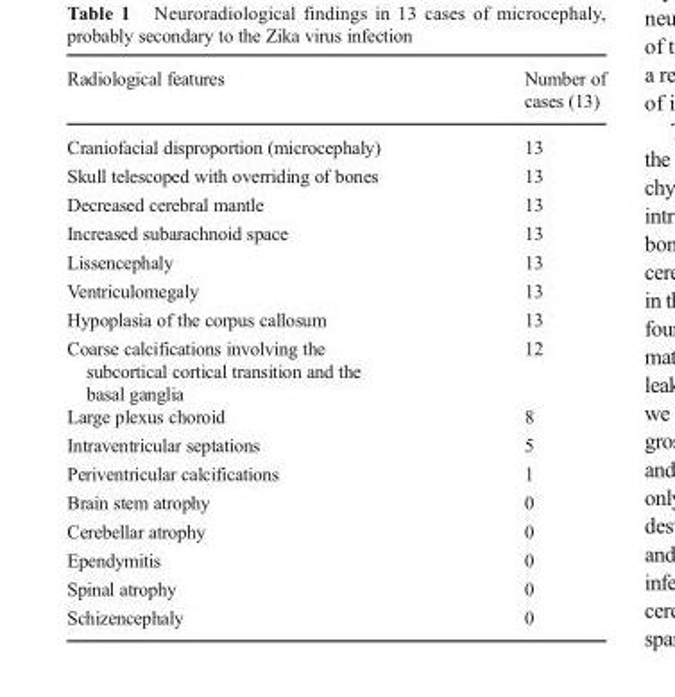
<table><thead><tr><td>Radiological features</td><td>Number of cases (13)</td></tr></thead><tbody><tr><td>Craniofacial disproportion (microcephaly)</td><td>13</td></tr><tr><td>Skull telescoped with overriding of bones</td><td>13</td></tr><tr><td>Decreased cerebral mantle</td><td>13</td></tr><tr><td>Increased subarachnoid space</td><td>13</td></tr><tr><td>Lissencephaly</td><td>13</td></tr><tr><td>Ventriculomegaly</td><td>13</td></tr><tr><td>Hypoplasia of the corpus callosum</td><td>13</td></tr><tr><td>Coarse calcifications involving the subcortical cortical transition and the basal ganglia</td><td>12</td></tr><tr><td>Large plexus choroid</td><td>8</td></tr><tr><td>Intraventricular septations</td><td>5</td></tr><tr><td>Periventricular calcifications</td><td>1</td></tr><tr><td>Brain stem atrophy</td><td>0</td></tr><tr><td>Cerebellar atrophy</td><td>0</td></tr><tr><td>Ependymitis</td><td>0</td></tr><tr><td>Spinal atrophy</td><td>0</td></tr><tr><td>Schizencephaly</td><td>0</td></tr></tbody></table>